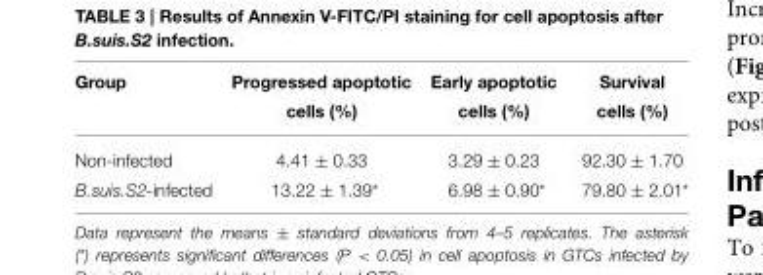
<table><thead><tr><td>Group</td><td>Progressed apoptotic cells (%)</td><td>Early apoptotic cells (%)</td><td>Survival cells (%)</td></tr></thead><tbody><tr><td>Non-infected</td><td>4.41 ± 0.33</td><td>3.29 ± 0.23</td><td>92.30 ± 1.70</td></tr><tr><td>B.suis.S2-infected</td><td>13.22 ± 1.39*</td><td>6.98 ± 0.90*</td><td>79.80 ± 2.01*</td></tr></tbody></table>